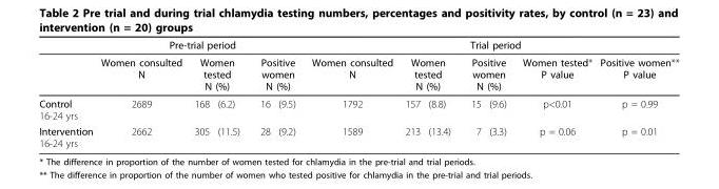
<table><thead><tr><td rowspan="3">Control 16-24 yrs</td><td colspan="5">Pre-trial period</td><td colspan="7">Trial period</td></tr><tr><td rowspan="2">Women consulted N 2689</td><td colspan="2">Women tested N (%)</td><td colspan="2">Positive women N (%)</td><td rowspan="2">Women consulted N 1792</td><td colspan="2">Women tested N (%)</td><td colspan="2">Positive women N (%)</td><td rowspan="2">Women tested* P value p&lt;0.01</td><td rowspan="2">Positive women** P value p = 0.99</td></tr><tr><td>168</td><td>(6.2)</td><td>16</td><td>(9.5)</td><td>157</td><td>(8.8)</td><td>15</td><td>(9.6)</td></tr></thead><tbody><tr><td>Intervention 16-24 yrs</td><td>2662</td><td>305</td><td>(11.5)</td><td>28</td><td>(9.2)</td><td>1589</td><td>213</td><td>(13.4)</td><td>7</td><td>(3.3)</td><td>p = 0.06</td><td>p = 0.01</td></tr></tbody></table>